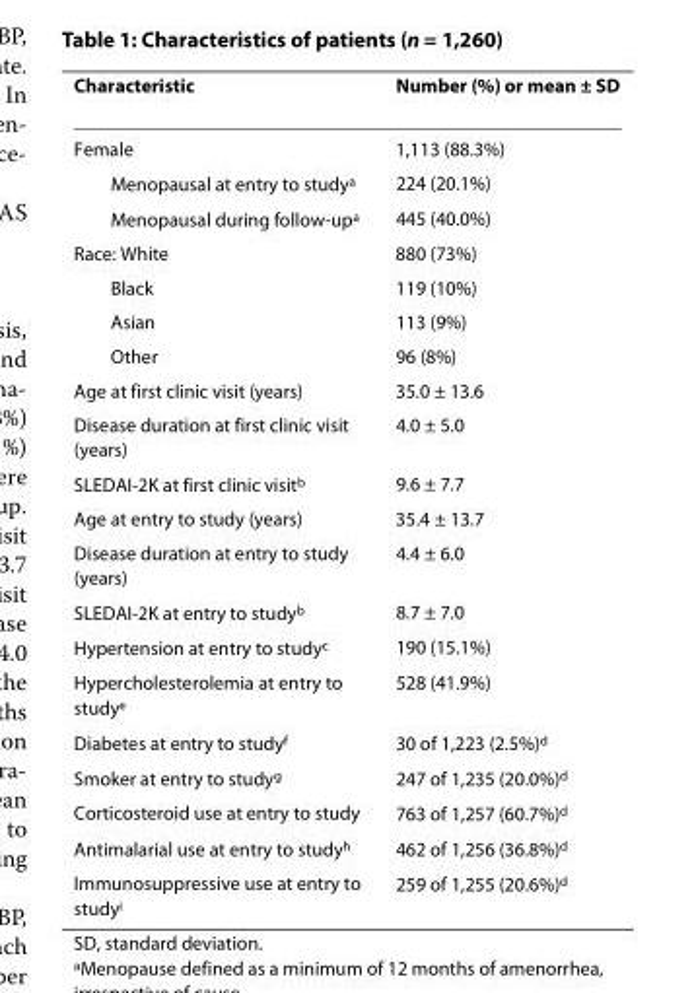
<table><thead><tr><td>Characteristic</td><td>Number (%) or mean ± SD</td></tr></thead><tbody><tr><td>Female</td><td>1,113 (88.3%)</td></tr><tr><td>Menopausal at entry to study<sup>a</sup></td><td>224 (20.1%)</td></tr><tr><td>Menopausal during follow-up<sup>a</sup></td><td>445 (40.0%)</td></tr><tr><td>Race: White</td><td>880 (73%)</td></tr><tr><td>Black</td><td>119 (10%)</td></tr><tr><td>Asian</td><td>113 (9%)</td></tr><tr><td>Other</td><td>96 (8%)</td></tr><tr><td>Age at first clinic visit (years)</td><td>35.0 ± 13.6</td></tr><tr><td>Disease duration at first clinic visit (years)</td><td>4.0 ± 5.0</td></tr><tr><td>SLEDAI-2K at first clinic visit<sup>b</sup></td><td>9.6 ± 7.7</td></tr><tr><td>Age at entry to study (years)</td><td>35.4 ± 13.7</td></tr><tr><td>Disease duration at entry to study (years)</td><td>4.4 ± 6.0</td></tr><tr><td>SLEDAI-2K at entry to study<sup>b</sup></td><td>8.7 ± 7.0</td></tr><tr><td>Hypertension at entry to study<sup>c</sup></td><td>190 (15.1%)</td></tr><tr><td>Hypercholesterolemia at entry to study<sup>e</sup></td><td>528 (41.9%)</td></tr><tr><td>Diabetes at entry to study<sup>f</sup></td><td>30 of 1,223 (2.5%)<sup>d</sup></td></tr><tr><td>Smoker at entry to study<sup>g</sup></td><td>247 of 1,235 (20.0%)<sup>d</sup></td></tr><tr><td>Corticosteroid use at entry to study</td><td>763 of 1,257 (60.7%)<sup>d</sup></td></tr><tr><td>Antimalarial use at entry to study<sup>h</sup></td><td>462 of 1,256 (36.8%)<sup>d</sup></td></tr><tr><td>Immunosuppressive use at entry to study<sup>i</sup></td><td>259 of 1,255 (20.6%)<sup>d</sup></td></tr></tbody></table>